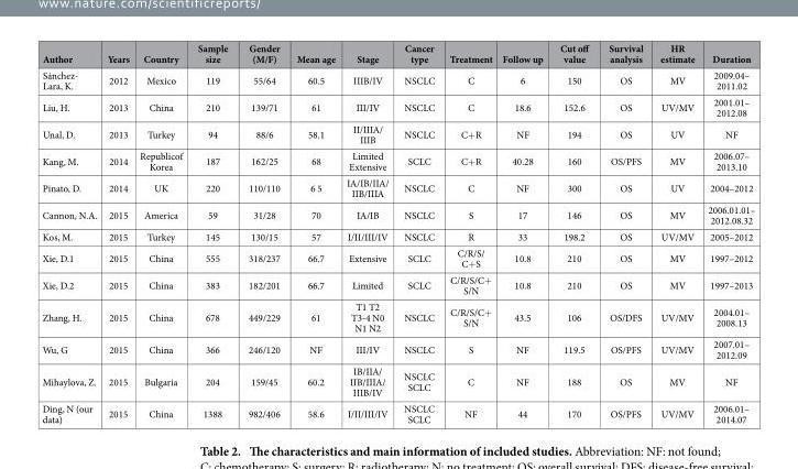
<table><thead><tr><td>Author</td><td>Years</td><td>Country</td><td>Sample size</td><td>Gender (M/F)</td><td>Mean age</td><td>Stage</td><td>Cancer type</td><td>Treatment</td><td>Follow up</td><td>Cut off value</td><td>Survival analysis</td><td>HR estimate</td><td>Duration</td></tr></thead><tbody><tr><td>Sánchez- Lara, K.</td><td>2012</td><td>Mexico</td><td>119</td><td>55/64</td><td>60.5</td><td>IIIB/IV</td><td>NSCLC</td><td>C</td><td>6</td><td>150</td><td>OS</td><td>MV</td><td>2009.04– 2011.02</td></tr><tr><td>Liu, H.</td><td>2013</td><td>China</td><td>210</td><td>139/71</td><td>61</td><td>III/IV</td><td>NSCLC</td><td>C</td><td>18.6</td><td>152.6</td><td>OS</td><td>UV/MV</td><td>2001.01– 2012.08</td></tr><tr><td>Unal, D.</td><td>2013</td><td>Turkey</td><td>94</td><td>88/6</td><td>58.1</td><td>II/IIIA/ IIIB</td><td>NSCLC</td><td>C+ R</td><td>NF</td><td>194</td><td>OS</td><td>UV</td><td>NF</td></tr><tr><td>Kang, M.</td><td>2014</td><td>Republicof Korea</td><td>187</td><td>162/25</td><td>68</td><td>Limited Extensive</td><td>SCLC</td><td>C+ R</td><td>40.28</td><td>160</td><td>OS/PFS</td><td>MV</td><td>2006.07– 2013.10</td></tr><tr><td>Pinato, D.</td><td>2014</td><td>UK</td><td>220</td><td>110/110</td><td>6 5</td><td>IA/IB/IIA/ IIB/IIIA</td><td>NSCLC</td><td>C</td><td>NF</td><td>300</td><td>OS</td><td>UV</td><td>2004–2012</td></tr><tr><td>Cannon, N.A.</td><td>2015</td><td>America</td><td>59</td><td>31/28</td><td>70</td><td>IA/IB</td><td>NSCLC</td><td>S</td><td>17</td><td>146</td><td>OS</td><td>MV</td><td>2006.01.01– 2012.08.32</td></tr><tr><td>Kos, M.</td><td>2015</td><td>Turkey</td><td>145</td><td>130/15</td><td>57</td><td>I/II/III/IV</td><td>NSCLC</td><td>R</td><td>33</td><td>198.2</td><td>OS</td><td>UV/MV</td><td>2005–2012</td></tr><tr><td>Xie, D.1</td><td>2015</td><td>China</td><td>555</td><td>318/237</td><td>66.7</td><td>Extensive</td><td>SCLC</td><td>C/R/S/ C+ S</td><td>10.8</td><td>210</td><td>OS</td><td>MV</td><td>1997–2012</td></tr><tr><td>Xie, D.2</td><td>2015</td><td>China</td><td>383</td><td>182/201</td><td>66.7</td><td>Limited</td><td>SCLC</td><td>C/R/S/C+ S/N</td><td>10.8</td><td>210</td><td>OS</td><td>MV</td><td>1997–2013</td></tr><tr><td>Zhang, H.</td><td>2015</td><td>China</td><td>678</td><td>449/229</td><td>61</td><td>T1 T2 T3-4 N0 N1 N2</td><td>NSCLC</td><td>C/R/S/C+ S/N</td><td>43.5</td><td>106</td><td>OS/DFS</td><td>UV/MV</td><td>2004.01– 2008.13</td></tr><tr><td>Wu, G</td><td>2015</td><td>China</td><td>366</td><td>246/120</td><td>NF</td><td>III/IV</td><td>NSCLC</td><td>S</td><td>NF</td><td>119.5</td><td>OS/PFS</td><td>UV/MV</td><td>2007.01– 2012.09</td></tr><tr><td>Mihaylova, Z.</td><td>2015</td><td>Bulgaria</td><td>204</td><td>159/45</td><td>60.2</td><td>IB/IIA/ IIB/IIIA/ IIIB/IV</td><td>NSCLC SCLC</td><td>C</td><td>NF</td><td>188</td><td>OS</td><td>MV</td><td>NF</td></tr><tr><td>Ding, N (our data)</td><td>2015</td><td>China</td><td>1388</td><td>982/406</td><td>58.6</td><td>I/II/III/IV</td><td>NSCLC SCLC</td><td>NF</td><td>44</td><td>170</td><td>OS/PFS</td><td>UV/MV</td><td>2006.01– 2014.07</td></tr></tbody></table>